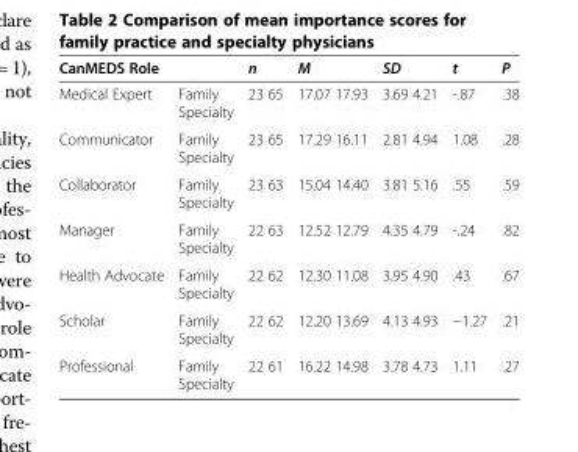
<table><thead><tr><td colspan="2">CanMEDS Role</td><td rowspan="2">n 23 65</td><td rowspan="2">M 17.07 17.93</td><td rowspan="2">SD 3.69 4.21</td><td rowspan="2">t -.87</td><td rowspan="2">P .38</td></tr><tr><td>Medical Expert</td><td>Family Specialty</td></tr></thead><tbody><tr><td>Communicator</td><td>Family Specialty</td><td>23 65</td><td>17.29 16.11</td><td>2.81 4.94</td><td>1.08</td><td>.28</td></tr><tr><td>Collaborator</td><td>Family Specialty</td><td>23 63</td><td>15.04 14.40</td><td>3.81 5.16</td><td>.55</td><td>.59</td></tr><tr><td>Manager</td><td>Family Specialty</td><td>22 63</td><td>12.52 12.79</td><td>4.35 4.79</td><td>-.24</td><td>.82</td></tr><tr><td>Health Advocate</td><td>Family Specialty</td><td>22 62</td><td>12.30 11.08</td><td>3.95 4.90</td><td>.43</td><td>.67</td></tr><tr><td>Scholar</td><td>Family Specialty</td><td>22 62</td><td>12.20 13.69</td><td>4.13 4.93</td><td>−1.27</td><td>.21</td></tr><tr><td>Professional</td><td>Family Specialty</td><td>22 61</td><td>16.22 14.98</td><td>3.78 4.73</td><td>1.11</td><td>.27</td></tr></tbody></table>